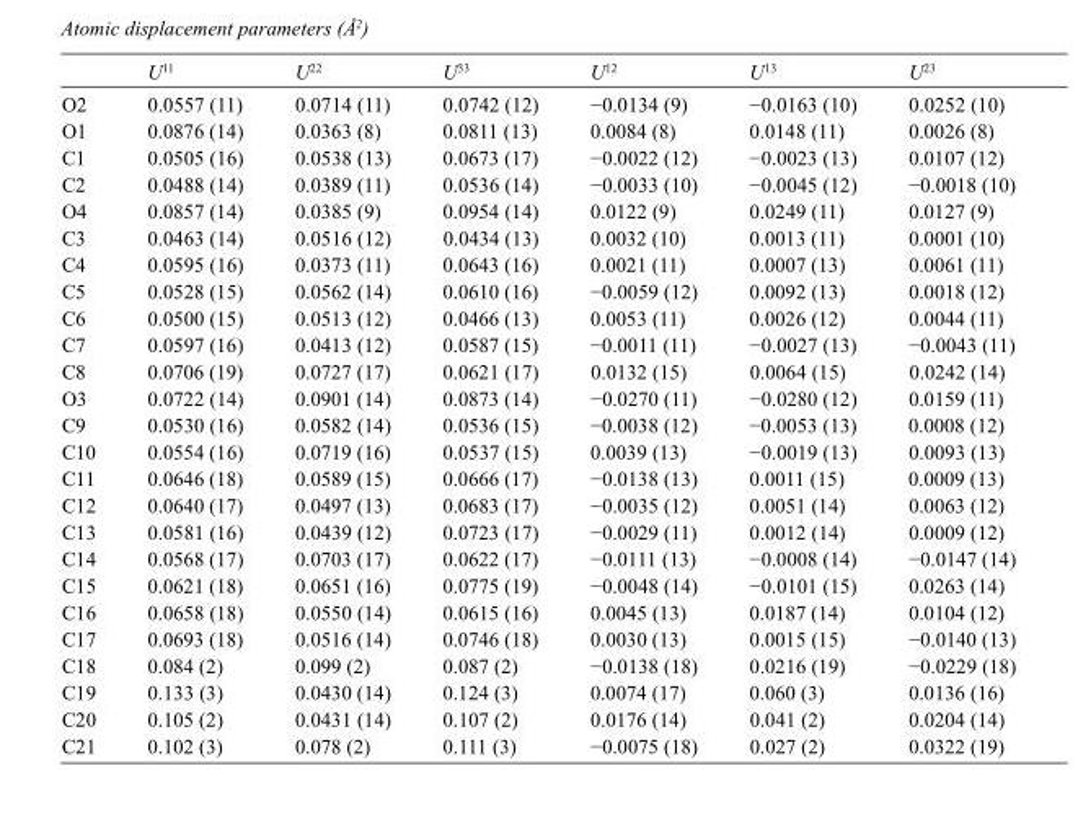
<table><thead><tr><td></td><td>U<sup>11</sup></td><td>U<sup>22</sup></td><td>U<sup>33</sup></td><td>U<sup>12</sup></td><td>U<sup>13</sup></td><td>U<sup>23</sup></td></tr></thead><tbody><tr><td>O2</td><td>0.0557 (11)</td><td>0.0714 (11)</td><td>0.0742 (12)</td><td>−0.0134 (9)</td><td>−0.0163 (10)</td><td>0.0252 (10)</td></tr><tr><td>O1</td><td>0.0876 (14)</td><td>0.0363 (8)</td><td>0.0811 (13)</td><td>0.0084 (8)</td><td>0.0148 (11)</td><td>0.0026 (8)</td></tr><tr><td>C1</td><td>0.0505 (16)</td><td>0.0538 (13)</td><td>0.0673 (17)</td><td>−0.0022 (12)</td><td>−0.0023 (13)</td><td>0.0107 (12)</td></tr><tr><td>C2</td><td>0.0488 (14)</td><td>0.0389 (11)</td><td>0.0536 (14)</td><td>−0.0033 (10)</td><td>−0.0045 (12)</td><td>−0.0018 (10)</td></tr><tr><td>O4</td><td>0.0857 (14)</td><td>0.0385 (9)</td><td>0.0954 (14)</td><td>0.0122 (9)</td><td>0.0249 (11)</td><td>0.0127 (9)</td></tr><tr><td>C3</td><td>0.0463 (14)</td><td>0.0516 (12)</td><td>0.0434 (13)</td><td>0.0032 (10)</td><td>0.0013 (11)</td><td>0.0001 (10)</td></tr><tr><td>C4</td><td>0.0595 (16)</td><td>0.0373 (11)</td><td>0.0643 (16)</td><td>0.0021 (11)</td><td>0.0007 (13)</td><td>0.0061 (11)</td></tr><tr><td>C5</td><td>0.0528 (15)</td><td>0.0562 (14)</td><td>0.0610 (16)</td><td>−0.0059 (12)</td><td>0.0092 (13)</td><td>0.0018 (12)</td></tr><tr><td>C6</td><td>0.0500 (15)</td><td>0.0513 (12)</td><td>0.0466 (13)</td><td>0.0053 (11)</td><td>0.0026 (12)</td><td>0.0044 (11)</td></tr><tr><td>C7</td><td>0.0597 (16)</td><td>0.0413 (12)</td><td>0.0587 (15)</td><td>−0.0011 (11)</td><td>−0.0027 (13)</td><td>−0.0043 (11)</td></tr><tr><td>C8</td><td>0.0706 (19)</td><td>0.0727 (17)</td><td>0.0621 (17)</td><td>0.0132 (15)</td><td>0.0064 (15)</td><td>0.0242 (14)</td></tr><tr><td>O3</td><td>0.0722 (14)</td><td>0.0901 (14)</td><td>0.0873 (14)</td><td>−0.0270 (11)</td><td>−0.0280 (12)</td><td>0.0159 (11)</td></tr><tr><td>C9</td><td>0.0530 (16)</td><td>0.0582 (14)</td><td>0.0536 (15)</td><td>−0.0038 (12)</td><td>−0.0053 (13)</td><td>0.0008 (12)</td></tr><tr><td>C10</td><td>0.0554 (16)</td><td>0.0719 (16)</td><td>0.0537 (15)</td><td>0.0039 (13)</td><td>−0.0019 (13)</td><td>0.0093 (13)</td></tr><tr><td>C11</td><td>0.0646 (18)</td><td>0.0589 (15)</td><td>0.0666 (17)</td><td>−0.0138 (13)</td><td>0.0011 (15)</td><td>0.0009 (13)</td></tr><tr><td>C12</td><td>0.0640 (17)</td><td>0.0497 (13)</td><td>0.0683 (17)</td><td>−0.0035 (12)</td><td>0.0051 (14)</td><td>0.0063 (12)</td></tr><tr><td>C13</td><td>0.0581 (16)</td><td>0.0439 (12)</td><td>0.0723 (17)</td><td>−0.0029 (11)</td><td>0.0012 (14)</td><td>0.0009 (12)</td></tr><tr><td>C14</td><td>0.0568 (17)</td><td>0.0703 (17)</td><td>0.0622 (17)</td><td>−0.0111 (13)</td><td>−0.0008 (14)</td><td>−0.0147 (14)</td></tr><tr><td>C15</td><td>0.0621 (18)</td><td>0.0651 (16)</td><td>0.0775 (19)</td><td>−0.0048 (14)</td><td>−0.0101 (15)</td><td>0.0263 (14)</td></tr><tr><td>C16</td><td>0.0658 (18)</td><td>0.0550 (14)</td><td>0.0615 (16)</td><td>0.0045 (13)</td><td>0.0187 (14)</td><td>0.0104 (12)</td></tr><tr><td>C17</td><td>0.0693 (18)</td><td>0.0516 (14)</td><td>0.0746 (18)</td><td>0.0030 (13)</td><td>0.0015 (15)</td><td>−0.0140 (13)</td></tr><tr><td>C18</td><td>0.084 (2)</td><td>0.099 (2)</td><td>0.087 (2)</td><td>−0.0138 (18)</td><td>0.0216 (19)</td><td>−0.0229 (18)</td></tr><tr><td>C19</td><td>0.133 (3)</td><td>0.0430 (14)</td><td>0.124 (3)</td><td>0.0074 (17)</td><td>0.060 (3)</td><td>0.0136 (16)</td></tr><tr><td>C20</td><td>0.105 (2)</td><td>0.0431 (14)</td><td>0.107 (2)</td><td>0.0176 (14)</td><td>0.041 (2)</td><td>0.0204 (14)</td></tr><tr><td>C21</td><td>0.102 (3)</td><td>0.078 (2)</td><td>0.111 (3)</td><td>−0.0075 (18)</td><td>0.027 (2)</td><td>0.0322 (19)</td></tr></tbody></table>